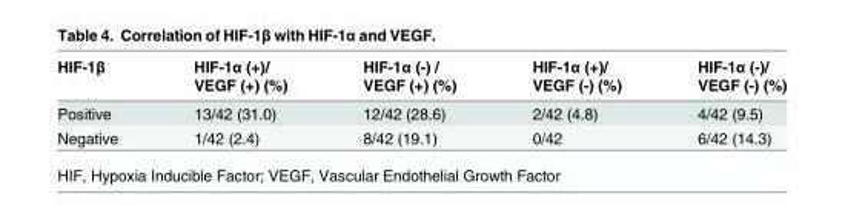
<table><thead><tr><td rowspan="2">HIF-1β</td><td rowspan="2">HIF-1α (+)/ VEGF (+) (%)</td><td rowspan="2">HIF-1α (-) / VEGF (+) (%)</td><td rowspan="2">HIF-1α (+)/ VEGF (-) (%)</td><td rowspan="2">HIF-1α (-)/ VEGF (-) (%)</td></tr><tr></tr></thead><tbody><tr><td>Positive</td><td>13/42 (31.0)</td><td>12/42 (28.6)</td><td>2/42 (4.8)</td><td>4/42 (9.5)</td></tr><tr><td>Negative</td><td>1/42 (2.4)</td><td>8/42 (19.1)</td><td>0/42</td><td>6/42 (14.3)</td></tr></tbody></table>